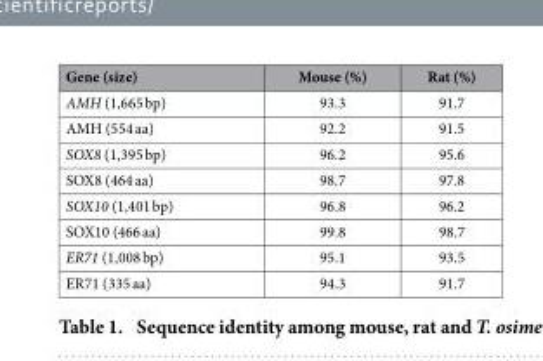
<table><thead><tr><td>Gene (size)</td><td>Mouse (%)</td><td>Rat (%)</td></tr></thead><tbody><tr><td>AMH (1,665 bp)</td><td>93.3</td><td>91.7</td></tr><tr><td>AMH (554 aa)</td><td>92.2</td><td>91.5</td></tr><tr><td>SOX8 (1,395 bp)</td><td>96.2</td><td>95.6</td></tr><tr><td>SOX8 (464 aa)</td><td>98.7</td><td>97.8</td></tr><tr><td>SOX10 (1,401 bp)</td><td>96.8</td><td>96.2</td></tr><tr><td>SOX10 (466 aa)</td><td>99.8</td><td>98.7</td></tr><tr><td>ER71 (1,008 bp)</td><td>95.1</td><td>93.5</td></tr><tr><td>ER71 (335 aa)</td><td>94.3</td><td>91.7</td></tr></tbody></table>